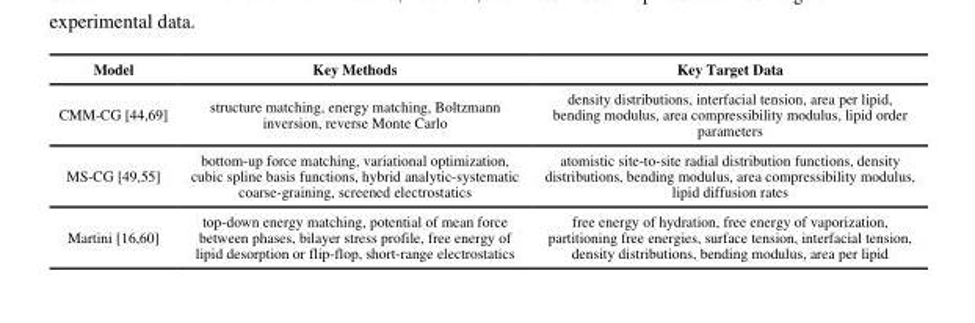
<table><thead><tr><td>Model</td><td>Key Methods</td><td>Key Target Data</td></tr></thead><tbody><tr><td>CMM-CG [44,69]</td><td>structure matching, energy matching, Boltzmann inversion, reverse Monte Carlo</td><td>density distributions, interfacial tension, area per lipid, bending modulus, area compressibility modulus, lipid order parameters</td></tr><tr><td>MS-CG [49,55]</td><td>bottom-up force matching, variational optimization, cubic spline basis functions, hybrid analytic-systematic coarse-graining, screened electrostatics</td><td>atomistic site-to-site radial distribution functions, density distributions, bending modulus, area compressibility modulus, lipid diffusion rates</td></tr><tr><td>Martini [16,60]</td><td>top-down energy matching, potential of mean force between phases, bilayer stress profile, free energy of lipid desorption or flip-flop, short-range electrostatics</td><td>free energy of hydration, free energy of vaporization, partitioning free energies, surface tension, interfacial tension, density distributions, bending modulus, area per lipid</td></tr></tbody></table>